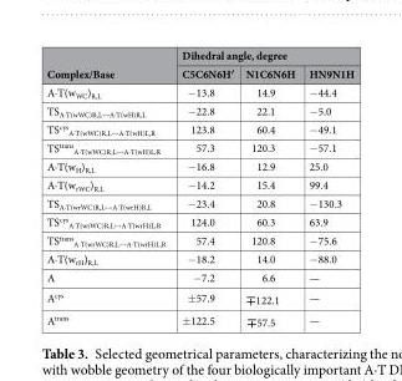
<table><thead><tr><td rowspan="2">Complex/Base</td><td colspan="3">Dihedral angle, degree</td></tr><tr><td>C5C6N6H′</td><td>N1C6N6H</td><td>HN9N1H</td></tr></thead><tbody><tr><td>А·Т(w<sub>WC</sub>)<sub>R,L</sub></td><td>−13.8</td><td>14.9</td><td>−44.4</td></tr><tr><td>TS<sub>А·Т(wWC)R,L↔А·Т(wН)R,L</sub></td><td>−22.8</td><td>22.1</td><td>−5.0</td></tr><tr><td>TS<sup>cys</sup> <sub>А·Т(wWC)R,L↔А·Т(wН)L,R</sub></td><td>123.8</td><td>60.4</td><td>−49.1</td></tr><tr><td>TS<sup>trans</sup> <sub>А·Т(wWC)R,L↔А·Т(wН)L,R</sub></td><td>57.3</td><td>120.3</td><td>−57.1</td></tr><tr><td>А·Т(w<sub>Н</sub>)<sub>R,L</sub></td><td>−16.8</td><td>12.9</td><td>25.0</td></tr><tr><td>А·Т(w<sub>rWC</sub>)<sub>R,L</sub></td><td>−14.2</td><td>15.4</td><td>99.4</td></tr><tr><td>TS<sub>А·Т(wrWC)R,L↔А·Т(wrН)R,L</sub></td><td>−23.4</td><td>20.8</td><td>−130.3</td></tr><tr><td>TS<sup>cys</sup> <sub>А·Т(wrWC)R,L↔А·Т(wrН)L,R</sub></td><td>124.0</td><td>60.3</td><td>63.9</td></tr><tr><td>TS<sup>trans</sup> <sub>А·Т(wrWC)R,L↔А·Т(wrН)L,R</sub></td><td>57.4</td><td>120.8</td><td>−75.6</td></tr><tr><td>А·Т(w<sub>rН</sub>)<sub>R,L</sub></td><td>−18.2</td><td>14.0</td><td>−88.0</td></tr><tr><td>A</td><td>−7.2</td><td>6.6</td><td>—</td></tr><tr><td>A<sup>cys</sup></td><td>±57.9</td><td>∓122.1</td><td>—</td></tr><tr><td>A<sup>trans</sup></td><td>±122.5</td><td>∓57.5</td><td>—</td></tr></tbody></table>